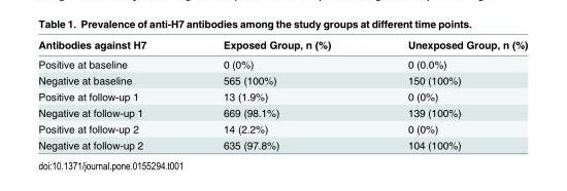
<table><thead><tr><td>Antibodies against H7</td><td>Exposed Group, n (%)</td><td>Unexposed Group, n (%)</td></tr></thead><tbody><tr><td>Positive at baseline</td><td>0 (0%)</td><td>0 (0.0%)</td></tr><tr><td>Negative at baseline</td><td>565 (100%)</td><td>150 (100%)</td></tr><tr><td>Positive at follow-up 1</td><td>13 (1.9%)</td><td>0 (0%)</td></tr><tr><td>Negative at follow-up 1</td><td>669 (98.1%)</td><td>139 (100%)</td></tr><tr><td>Positive at follow-up 2</td><td>14 (2.2%)</td><td>0 (0%)</td></tr><tr><td>Negative at follow-up 2</td><td>635 (97.8%)</td><td>104 (100%)</td></tr></tbody></table>